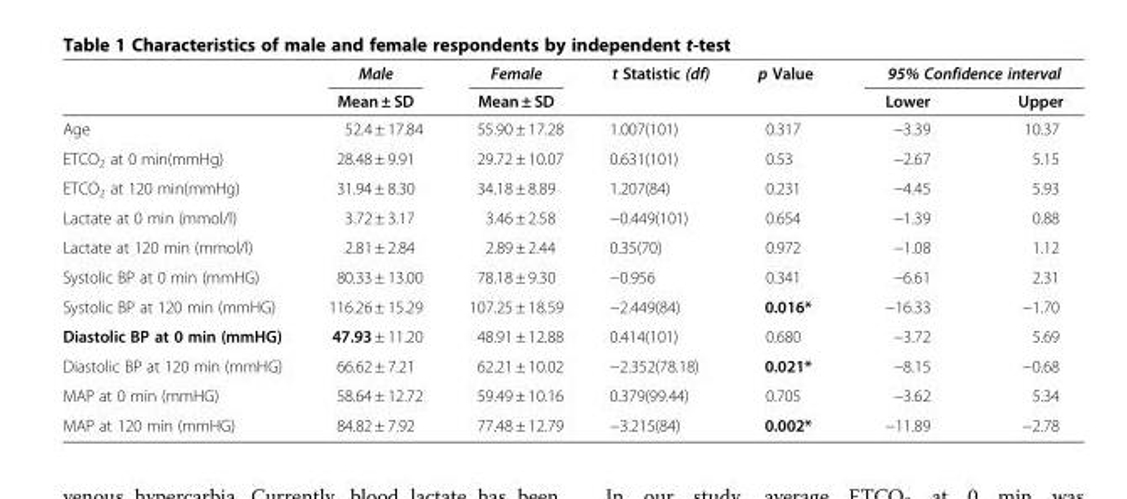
<table><thead><tr><td rowspan="2"></td><td rowspan="2">Male Mean ± SD</td><td rowspan="2">Female Mean ± SD</td><td rowspan="2">t Statistic (df)</td><td rowspan="2">p Value</td><td colspan="2">95% Confidence interval</td></tr><tr><td>Lower</td><td>Upper</td></tr></thead><tbody><tr><td>Age</td><td>52.4 ± 17.84</td><td>55.90 ± 17.28</td><td>1.007(101)</td><td>0.317</td><td>−3.39</td><td>10.37</td></tr><tr><td>ETCO<sub>2</sub> at 0 min(mmHg)</td><td>28.48 ± 9.91</td><td>29.72 ± 10.07</td><td>0.631(101)</td><td>0.53</td><td>−2.67</td><td>5.15</td></tr><tr><td>ETCO<sub>2</sub> at 120 min(mmHg)</td><td>31.94 ± 8.30</td><td>34.18 ± 8.89</td><td>1.207(84)</td><td>0.231</td><td>−4.45</td><td>5.93</td></tr><tr><td>Lactate at 0 min (mmol/l)</td><td>3.72 ± 3.17</td><td>3.46 ± 2.58</td><td>−0.449(101)</td><td>0.654</td><td>−1.39</td><td>0.88</td></tr><tr><td>Lactate at 120 min (mmol/l)</td><td>2.81 ± 2.84</td><td>2.89 ± 2.44</td><td>0.35(70)</td><td>0.972</td><td>−1.08</td><td>1.12</td></tr><tr><td>Systolic BP at 0 min (mmHG)</td><td>80.33 ± 13.00</td><td>78.18 ± 9.30</td><td>−0.956</td><td>0.341</td><td>−6.61</td><td>2.31</td></tr><tr><td>Systolic BP at 120 min (mmHG)</td><td>116.26 ± 15.29</td><td>107.25 ± 18.59</td><td>−2.449(84)</td><td>0.016*</td><td>−16.33</td><td>−1.70</td></tr><tr><td>Diastolic BP at 0 min (mmHG)</td><td>47.93 ± 11.20</td><td>48.91 ± 12.88</td><td>0.414(101)</td><td>0.680</td><td>−3.72</td><td>5.69</td></tr><tr><td>Diastolic BP at 120 min (mmHG)</td><td>66.62 ± 7.21</td><td>62.21 ± 10.02</td><td>−2.352(78.18)</td><td>0.021*</td><td>−8.15</td><td>−0.68</td></tr><tr><td>MAP at 0 min (mmHG)</td><td>58.64 ± 12.72</td><td>59.49 ± 10.16</td><td>0.379(99.44)</td><td>0.705</td><td>−3.62</td><td>5.34</td></tr><tr><td>MAP at 120 min (mmHG)</td><td>84.82 ± 7.92</td><td>77.48 ± 12.79</td><td>−3.215(84)</td><td>0.002*</td><td>−11.89</td><td>−2.78</td></tr></tbody></table>